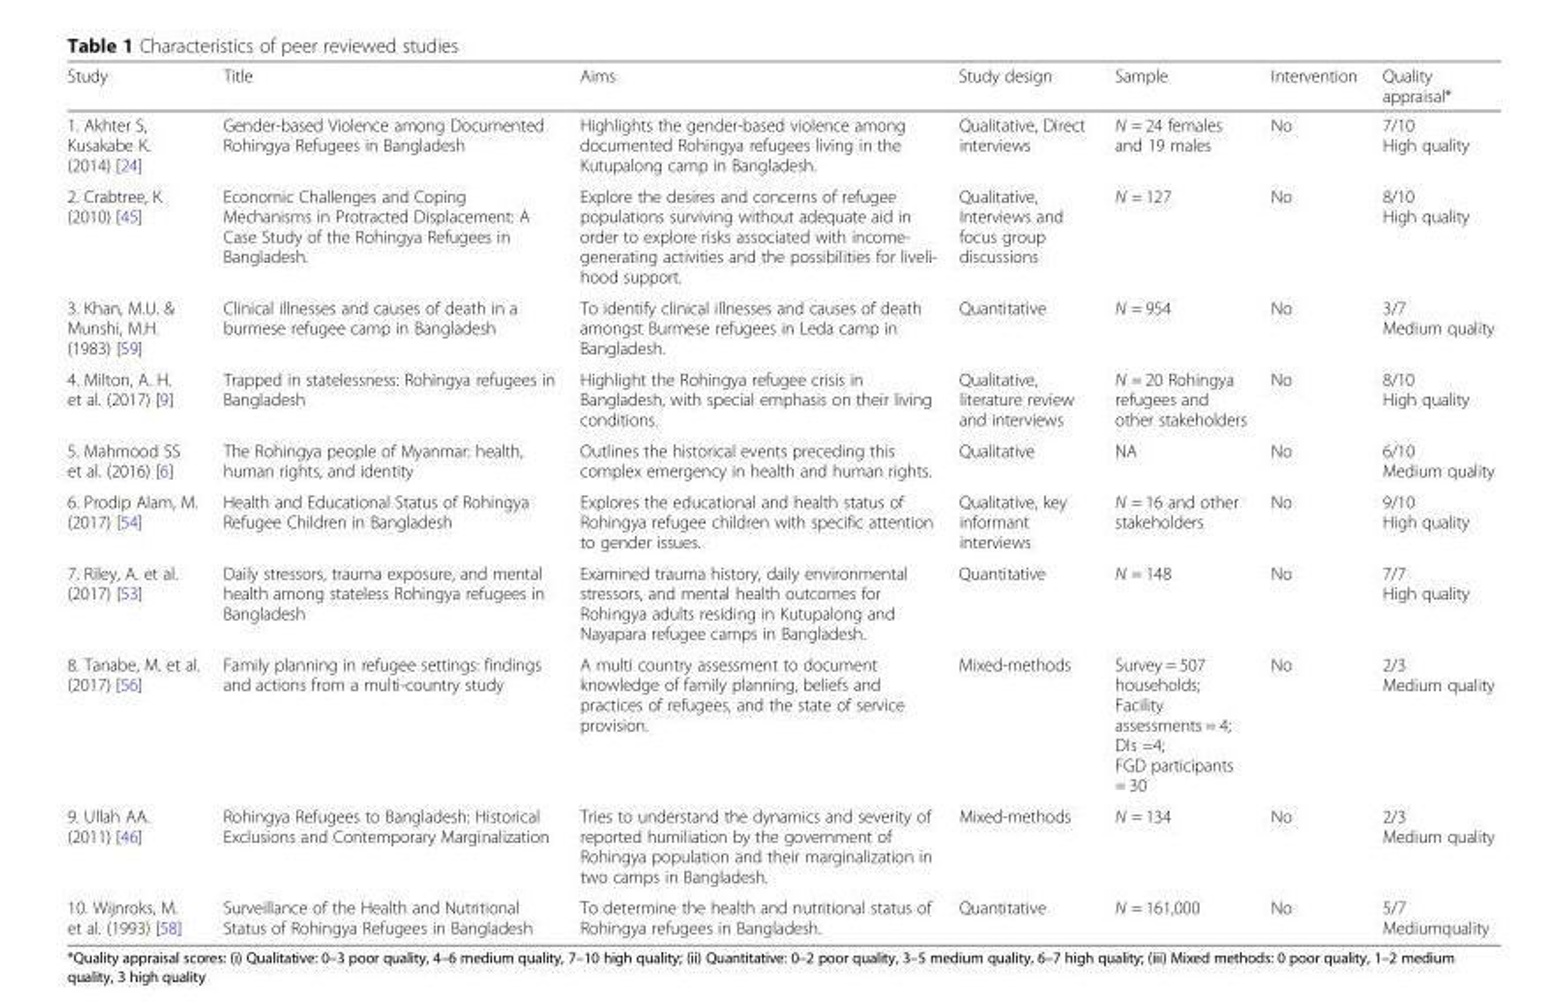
<table><thead><tr><td>Study</td><td>Title</td><td>Aims</td><td>Study design</td><td>Sample</td><td>Intervention</td><td>Quality appraisal*</td></tr></thead><tbody><tr><td>1. Akhter S, Kusakabe K. (2014) [24]</td><td>Gender-based Violence among Documented Rohingya Refugees in Bangladesh</td><td>Highlights the gender-based violence among documented Rohingya refugees living in the Kutupalong camp in Bangladesh.</td><td>Qualitative, Direct interviews</td><td>N = 24 females and 19 males</td><td>No</td><td>7/10 High quality</td></tr><tr><td>2. Crabtree, K (2010) [45]</td><td>Economic Challenges and Coping Mechanisms in Protracted Displacement: A Case Study of the Rohingya Refugees in Bangladesh.</td><td>Explore the desires and concerns of refugee populations surviving without adequate aid in order to explore risks associated with income- generating activities and the possibilities for liveli- hood support.</td><td>Qualitative, Interviews and focus group discussions</td><td>N = 127</td><td>No</td><td>8/10 High quality</td></tr><tr><td>3. Khan, M.U. &amp; Munshi, M.H. (1983) [59]</td><td>Clinical illnesses and causes of death in a burmese refugee camp in Bangladesh</td><td>To identify clinical illnesses and causes of death amongst Burmese refugees in Leda camp in Bangladesh.</td><td>Quantitative</td><td>N = 954</td><td>No</td><td>3/7 Medium quality</td></tr><tr><td>4. Milton, A. H. et al. (2017) [9]</td><td>Trapped in statelessness: Rohingya refugees in Bangladesh</td><td>Highlight the Rohingya refugee crisis in Bangladesh, with special emphasis on their living conditions.</td><td>Qualitative, literature review and interviews</td><td>N = 20 Rohingya refugees and other stakeholders</td><td>No</td><td>8/10 High quality</td></tr><tr><td>5. Mahmood SS et al. (2016) [6]</td><td>The Rohingya people of Myanmar: health, human rights, and identity</td><td>Outlines the historical events preceding this complex emergency in health and human rights.</td><td>Qualitative</td><td>NA</td><td>No</td><td>6/10 Medium quality</td></tr><tr><td>6. Prodip Alam, M. (2017) [54]</td><td>Health and Educational Status of Rohingya Refugee Children in Bangladesh</td><td>Explores the educational and health status of Rohingya refugee children with specific attention to gender issues.</td><td>Qualitative, key informant interviews</td><td>N = 16 and other stakeholders</td><td>No</td><td>9/10 High quality</td></tr><tr><td>7. Riley, A. et al. (2017) [53]</td><td>Daily stressors, trauma exposure, and mental health among stateless Rohingya refugees in Bangladesh</td><td>Examined trauma history, daily environmental stressors, and mental health outcomes for Rohingya adults residing in Kutupalong and Nayapara refugee camps in Bangladesh.</td><td>Quantitative</td><td>N = 148</td><td>No</td><td>7/7 High quality</td></tr><tr><td>8. Tanabe, M. et al. (2017) [56]</td><td>Family planning in refugee settings: findings and actions from a multi-country study</td><td>A multi country assessment to document knowledge of family planning, beliefs and practices of refugees, and the state of service provision.</td><td>Mixed-methods</td><td>Survey = 507 households; Facility assessments = 4; DIs =4; FGD participants = 30</td><td>No</td><td>2/3 Medium quality</td></tr><tr><td>9. Ullah AA. (2011) [46]</td><td>Rohingya Refugees to Bangladesh: Historical Exclusions and Contemporary Marginalization</td><td>Tries to understand the dynamics and severity of reported humiliation by the government of Rohingya population and their marginalization in two camps in Bangladesh.</td><td>Mixed-methods</td><td>N = 134</td><td>No</td><td>2/3 Medium quality</td></tr><tr><td>10. Wijnroks, M. et al. (1993) [58]</td><td>Surveillance of the Health and Nutritional Status of Rohingya Refugees in Bangladesh</td><td>To determine the health and nutritional status of Rohingya refugees in Bangladesh.</td><td>Quantitative</td><td>N = 161,000</td><td>No</td><td>5/7 Mediumquality</td></tr></tbody></table>